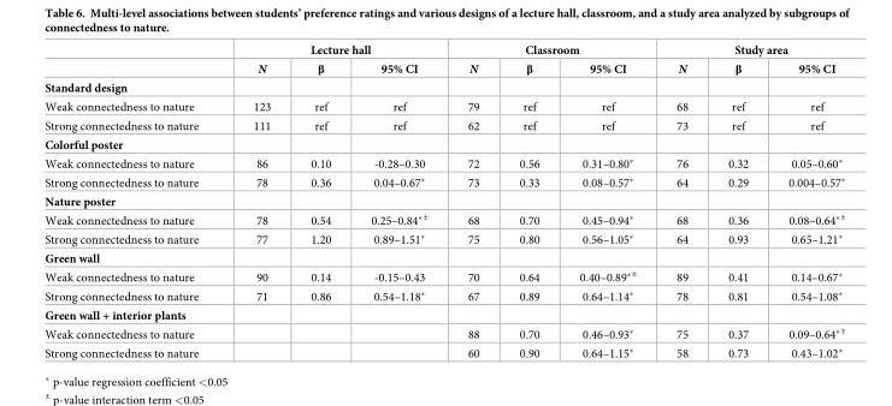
<table><thead><tr><td rowspan="2"></td><td colspan="3">Lecture hall</td><td colspan="3">Classroom</td><td colspan="3">Study area</td></tr><tr><td>N</td><td>β</td><td>95% CI</td><td>N</td><td>β</td><td>95% CI</td><td>N</td><td>β</td><td>95% CI</td></tr></thead><tbody><tr><td colspan="10">Standard design</td></tr><tr><td>Weak connectedness to nature</td><td>123</td><td>ref</td><td>ref</td><td>79</td><td>ref</td><td>ref</td><td>68</td><td>ref</td><td>ref</td></tr><tr><td>Strong connectedness to nature</td><td>111</td><td>ref</td><td>ref</td><td>62</td><td>ref</td><td>ref</td><td>73</td><td>ref</td><td>ref</td></tr><tr><td colspan="10">Colorful poster</td></tr><tr><td>Weak connectedness to nature</td><td>86</td><td>0.10</td><td>-0.28–0.30</td><td>72</td><td>0.56</td><td>0.31–0.80*</td><td>76</td><td>0.32</td><td>0.05–0.60*</td></tr><tr><td>Strong connectedness to nature</td><td>78</td><td>0.36</td><td>0.04–0.67*</td><td>73</td><td>0.33</td><td>0.08–0.57*</td><td>64</td><td>0.29</td><td>0.004–0.57*</td></tr><tr><td colspan="10">Nature poster</td></tr><tr><td>Weak connectedness to nature</td><td>78</td><td>0.54</td><td>0.25–0.84*<sup>±</sup></td><td>68</td><td>0.70</td><td>0.45–0.94*</td><td>68</td><td>0.36</td><td>0.08–0.64*<sup>±</sup></td></tr><tr><td>Strong connectedness to nature</td><td>77</td><td>1.20</td><td>0.89–1.51*</td><td>75</td><td>0.80</td><td>0.56–1.05*</td><td>64</td><td>0.93</td><td>0.65–1.21*</td></tr><tr><td colspan="10">Green wall</td></tr><tr><td>Weak connectedness to nature</td><td>90</td><td>0.14</td><td>-0.15–0.43</td><td>70</td><td>0.64</td><td>0.40–0.89*<sup>±</sup></td><td>89</td><td>0.41</td><td>0.14–0.67*</td></tr><tr><td>Strong connectedness to nature</td><td>71</td><td>0.86</td><td>0.54–1.18*</td><td>67</td><td>0.89</td><td>0.64–1.14*</td><td>78</td><td>0.81</td><td>0.54–1.08*</td></tr><tr><td colspan="10">Green wall + interior plants</td></tr><tr><td>Weak connectedness to nature</td><td></td><td></td><td></td><td>88</td><td>0.70</td><td>0.46–0.93*</td><td>75</td><td>0.37</td><td>0.09–0.64*<sup>±</sup></td></tr><tr><td>Strong connectedness to nature</td><td></td><td></td><td></td><td>60</td><td>0.90</td><td>0.64–1.15*</td><td>58</td><td>0.73</td><td>0.43–1.02*</td></tr></tbody></table>